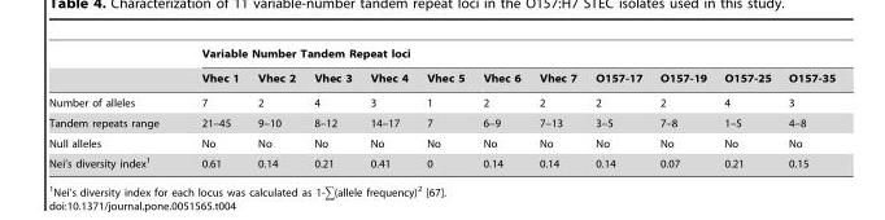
<table><thead><tr><td rowspan="2"></td><td colspan="11">Variable Number Tandem Repeat loci</td></tr><tr><td>Vhec 1</td><td>Vhec 2</td><td>Vhec 3</td><td>Vhec 4</td><td>Vhec 5</td><td>Vhec 6</td><td>Vhec 7</td><td>O157-17</td><td>O157-19</td><td>O157-25</td><td>O157-35</td></tr></thead><tbody><tr><td>Number of alleles</td><td>7</td><td>2</td><td>4</td><td>3</td><td>1</td><td>2</td><td>2</td><td>2</td><td>2</td><td>4</td><td>3</td></tr><tr><td>Tandem repeats range</td><td>21–45</td><td>9–10</td><td>8–12</td><td>14–17</td><td>7</td><td>6–9</td><td>7–13</td><td>3–5</td><td>7–8</td><td>1–5</td><td>4–8</td></tr><tr><td>Null alleles</td><td>No</td><td>No</td><td>No</td><td>No</td><td>No</td><td>No</td><td>No</td><td>No</td><td>No</td><td>No</td><td>No</td></tr><tr><td>Nei’s diversity index<sup>1</sup></td><td>0.61</td><td>0.14</td><td>0.21</td><td>0.41</td><td>0</td><td>0.14</td><td>0.14</td><td>0.14</td><td>0.07</td><td>0.21</td><td>0.15</td></tr></tbody></table>